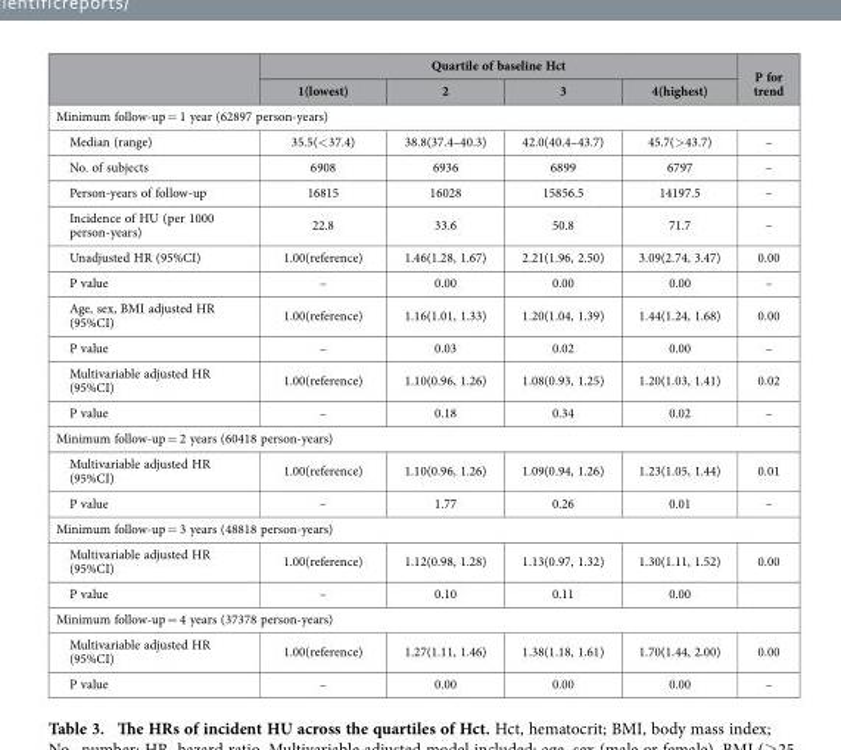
<table><thead><tr><td rowspan="2"></td><td colspan="4">Quartile of baseline Hct</td><td rowspan="2">P for trend</td></tr><tr><td>1(lowest)</td><td>2</td><td>3</td><td>4(highest)</td></tr></thead><tbody><tr><td colspan="6">Minimum follow-up = 1 year (62897 person-years)</td></tr><tr><td>Median (range)</td><td>35.5(&lt; 37.4)</td><td>38.8(37.4–40.3)</td><td>42.0(40.4–43.7)</td><td>45.7(&gt; 43.7)</td><td>–</td></tr><tr><td>No. of subjects</td><td>6908</td><td>6936</td><td>6899</td><td>6797</td><td>–</td></tr><tr><td>Person-years of follow-up</td><td>16815</td><td>16028</td><td>15856.5</td><td>14197.5</td><td>–</td></tr><tr><td>Incidence of HU (per 1000 person-years)</td><td>22.8</td><td>33.6</td><td>50.8</td><td>71.7</td><td>–</td></tr><tr><td>Unadjusted HR (95%CI)</td><td>1.00(reference)</td><td>1.46(1.28, 1.67)</td><td>2.21(1.96, 2.50)</td><td>3.09(2.74, 3.47)</td><td>0.00</td></tr><tr><td>P value</td><td>–</td><td>0.00</td><td>0.00</td><td>0.00</td><td>–</td></tr><tr><td>Age, sex, BMI adjusted HR (95%CI)</td><td>1.00(reference)</td><td>1.16(1.01, 1.33)</td><td>1.20(1.04, 1.39)</td><td>1.44(1.24, 1.68)</td><td>0.00</td></tr><tr><td>P value</td><td>–</td><td>0.03</td><td>0.02</td><td>0.00</td><td>–</td></tr><tr><td>Multivariable adjusted HR (95%CI)</td><td>1.00(reference)</td><td>1.10(0.96, 1.26)</td><td>1.08(0.93, 1.25)</td><td>1.20(1.03, 1.41)</td><td>0.02</td></tr><tr><td>P value</td><td>–</td><td>0.18</td><td>0.34</td><td>0.02</td><td>–</td></tr><tr><td colspan="6">Minimum follow-up = 2 years (60418 person-years)</td></tr><tr><td>Multivariable adjusted HR (95%CI)</td><td>1.00(reference)</td><td>1.10(0.96, 1.26)</td><td>1.09(0.94, 1.26)</td><td>1.23(1.05, 1.44)</td><td>0.01</td></tr><tr><td>P value</td><td>–</td><td>1.77</td><td>0.26</td><td>0.01</td><td>–</td></tr><tr><td colspan="6">Minimum follow-up = 3 years (48818 person-years)</td></tr><tr><td>Multivariable adjusted HR (95%CI)</td><td>1.00(reference)</td><td>1.12(0.98, 1.28)</td><td>1.13(0.97, 1.32)</td><td>1.30(1.11, 1.52)</td><td>0.00</td></tr><tr><td>P value</td><td>–</td><td>0.10</td><td>0.11</td><td>0.00</td><td></td></tr><tr><td colspan="6">Minimum follow-up = 4 years (37378 person-years)</td></tr><tr><td>Multivariable adjusted HR (95%CI)</td><td>1.00(reference)</td><td>1.27(1.11, 1.46)</td><td>1.38(1.18, 1.61)</td><td>1.70(1.44, 2.00)</td><td>0.00</td></tr><tr><td>P value</td><td>–</td><td>0.00</td><td>0.00</td><td>0.00</td><td>–</td></tr></tbody></table>